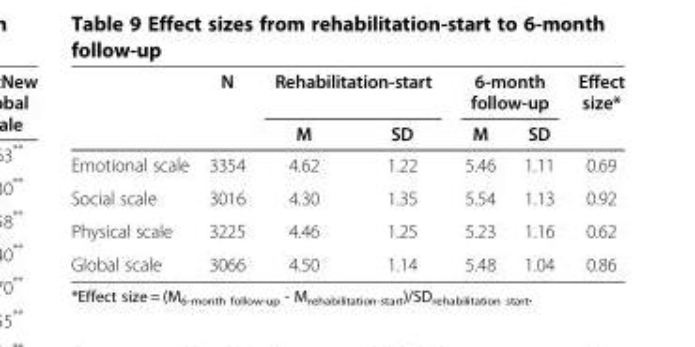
<table><thead><tr><td rowspan="2"></td><td rowspan="2">N</td><td colspan="2">Rehabilitation-start</td><td colspan="2">6-month follow-up</td><td rowspan="2">Effect size*</td></tr><tr><td>M</td><td>SD</td><td>M</td><td>SD</td></tr></thead><tbody><tr><td>Emotional scale</td><td>3354</td><td>4.62</td><td>1.22</td><td>5.46</td><td>1.11</td><td>0.69</td></tr><tr><td>Social scale</td><td>3016</td><td>4.30</td><td>1.35</td><td>5.54</td><td>1.13</td><td>0.92</td></tr><tr><td>Physical scale</td><td>3225</td><td>4.46</td><td>1.25</td><td>5.23</td><td>1.16</td><td>0.62</td></tr><tr><td>Global scale</td><td>3066</td><td>4.50</td><td>1.14</td><td>5.48</td><td>1.04</td><td>0.86</td></tr></tbody></table>